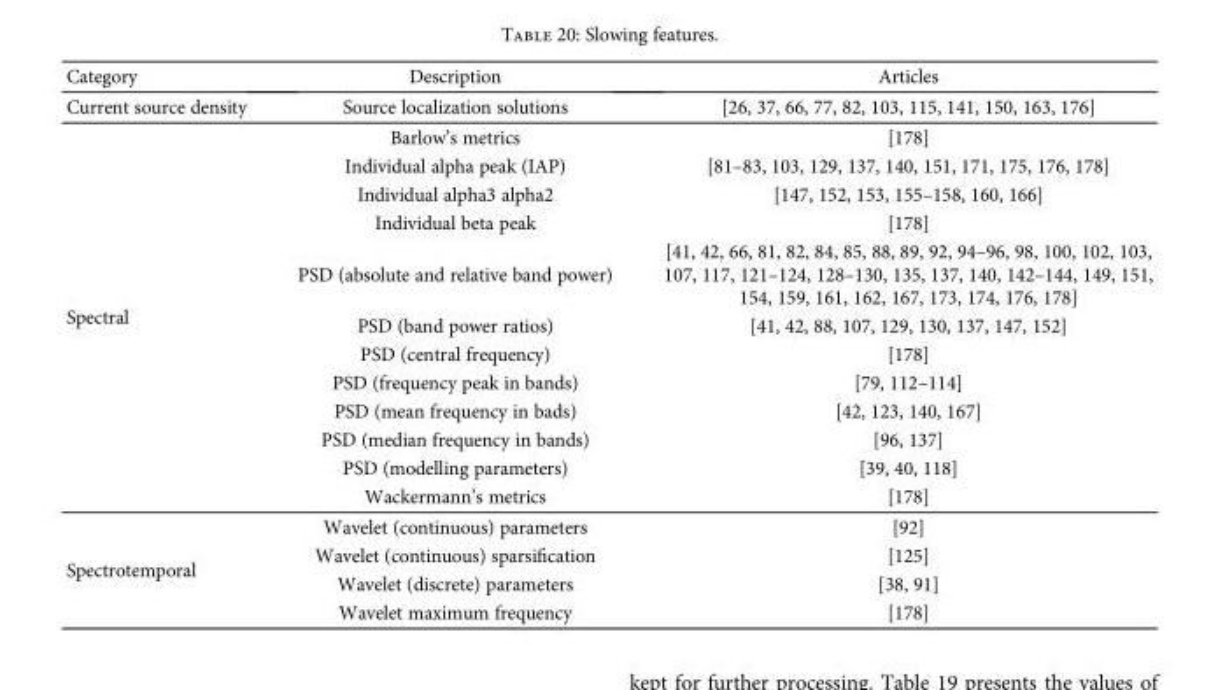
<table><thead><tr><td>Category</td><td>Description</td><td>Articles</td></tr></thead><tbody><tr><td>Current source density</td><td>Source localization solutions</td><td>[26, 37, 66, 77, 82, 103, 115, 141, 150, 163, 176]</td></tr><tr><td rowspan="12">Spectral</td><td>Barlow’s metrics</td><td>[178]</td></tr><tr><td>Individual alpha peak (IAP)</td><td>[81–83, 103, 129, 137, 140, 151, 171, 175, 176, 178]</td></tr><tr><td>Individual alpha3 alpha2</td><td>[147, 152, 153, 155–158, 160, 166]</td></tr><tr><td>Individual beta peak</td><td>[178]</td></tr><tr><td>PSD (absolute and relative band power)</td><td>[41, 42, 66, 81, 82, 84, 85, 88, 89, 92, 94–96, 98, 100, 102, 103, 107, 117, 121–124, 128–130, 135, 137, 140, 142–144, 149, 151, 154, 159, 161, 162, 167, 173, 174, 176, 178]</td></tr><tr><td>PSD (band power ratios)</td><td>[41, 42, 88, 107, 129, 130, 137, 147, 152]</td></tr><tr><td>PSD (central frequency)</td><td>[178]</td></tr><tr><td>PSD (frequency peak in bands)</td><td>[79, 112–114]</td></tr><tr><td>PSD (mean frequency in bads)</td><td>[42, 123, 140, 167]</td></tr><tr><td>PSD (median frequency in bands)</td><td>[96, 137]</td></tr><tr><td>PSD (modelling parameters)</td><td>[39, 40, 118]</td></tr><tr><td>Wackermann’s metrics</td><td>[178]</td></tr><tr><td rowspan="4">Spectrotemporal</td><td>Wavelet (continuous) parameters</td><td>[92]</td></tr><tr><td>Wavelet (continuous) sparsification</td><td>[125]</td></tr><tr><td>Wavelet (discrete) parameters</td><td>[38, 91]</td></tr><tr><td>Wavelet maximum frequency</td><td>[178]</td></tr></tbody></table>